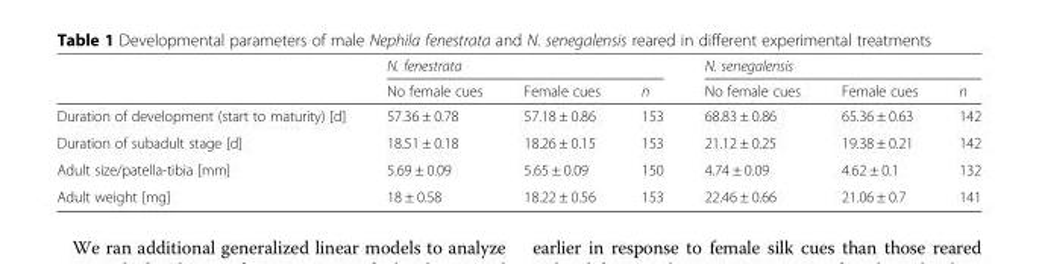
<table><thead><tr><td rowspan="2"></td><td colspan="3">N. fenestrata</td><td colspan="3">N. senegalensis</td></tr><tr><td>No female cues</td><td>Female cues</td><td>n</td><td>No female cues</td><td>Female cues</td><td>n</td></tr></thead><tbody><tr><td>Duration of development (start to maturity) [d]</td><td>57.36 ± 0.78</td><td>57.18 ± 0.86</td><td>153</td><td>68.83 ± 0.86</td><td>65.36 ± 0.63</td><td>142</td></tr><tr><td>Duration of subadult stage [d]</td><td>18.51 ± 0.18</td><td>18.26 ± 0.15</td><td>153</td><td>21.12 ± 0.25</td><td>19.38 ± 0.21</td><td>142</td></tr><tr><td>Adult size/patella-tibia [mm]</td><td>5.69 ± 0.09</td><td>5.65 ± 0.09</td><td>150</td><td>4.74 ± 0.09</td><td>4.62 ± 0.1</td><td>132</td></tr><tr><td>Adult weight [mg]</td><td>18 ± 0.58</td><td>18.22 ± 0.56</td><td>153</td><td>22.46 ± 0.66</td><td>21.06 ± 0.7</td><td>141</td></tr></tbody></table>